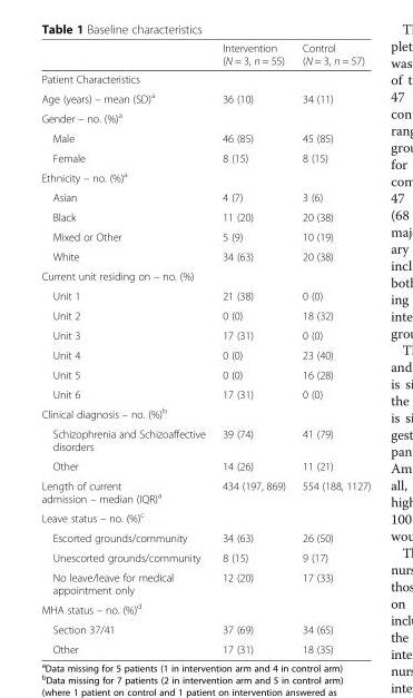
<table><thead><tr><td></td><td>Intervention (N = 3, n = 55)</td><td>Control (N = 3, n = 57)</td></tr></thead><tbody><tr><td colspan="3">Patient Characteristics</td></tr><tr><td>Age (years) – mean (SD)<sup>a</sup></td><td>36 (10)</td><td>34 (11)</td></tr><tr><td colspan="3">Gender – no. (%)<sup>a</sup></td></tr><tr><td>Male</td><td>46 (85)</td><td>45 (85)</td></tr><tr><td>Female</td><td>8 (15)</td><td>8 (15)</td></tr><tr><td colspan="3">Ethnicity – no. (%)<sup>a</sup></td></tr><tr><td>Asian</td><td>4 (7)</td><td>3 (6)</td></tr><tr><td>Black</td><td>11 (20)</td><td>20 (38)</td></tr><tr><td>Mixed or Other</td><td>5 (9)</td><td>10 (19)</td></tr><tr><td>White</td><td>34 (63)</td><td>20 (38)</td></tr><tr><td colspan="3">Current unit residing on – no. (%)</td></tr><tr><td>Unit 1</td><td>21 (38)</td><td>0 (0)</td></tr><tr><td>Unit 2</td><td>0 (0)</td><td>18 (32)</td></tr><tr><td>Unit 3</td><td>17 (31)</td><td>0 (0)</td></tr><tr><td>Unit 4</td><td>0 (0)</td><td>23 (40)</td></tr><tr><td>Unit 5</td><td>0 (0)</td><td>16 (28)</td></tr><tr><td>Unit 6</td><td>17 (31)</td><td>0 (0)</td></tr><tr><td colspan="3">Clinical diagnosis – no. (%)<sup>b</sup></td></tr><tr><td>Schizophrenia and Schizoaffective disorders</td><td>39 (74)</td><td>41 (79)</td></tr><tr><td>Other</td><td>14 (26)</td><td>11 (21)</td></tr><tr><td>Length of current admission – median (IQR)<sup>a</sup></td><td>434 (197, 869)</td><td>554 (188, 1127)</td></tr><tr><td colspan="3">Leave status – no. (%)<sup>c</sup></td></tr><tr><td>Escorted grounds/community</td><td>34 (63)</td><td>26 (50)</td></tr><tr><td>Unescorted grounds/community</td><td>8 (15)</td><td>9 (17)</td></tr><tr><td>No leave/leave for medical appointment only</td><td>12 (20)</td><td>17 (33)</td></tr><tr><td colspan="3">MHA status – no. (%)<sup>d</sup></td></tr><tr><td>Section 37/41</td><td>37 (69)</td><td>34 (65)</td></tr><tr><td>Other</td><td>17 (31)</td><td>18 (35)</td></tr></tbody></table>